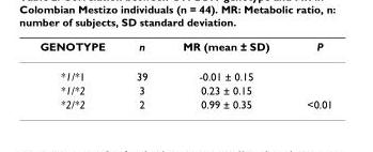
<table><thead><tr><td>GENOTYPE</td><td>n</td><td>MR (mean ± SD)</td><td>P</td></tr></thead><tbody><tr><td>*1/*1</td><td>39</td><td>-0.01 ± 0.15</td><td></td></tr><tr><td>*1/*2</td><td>3</td><td>0.23 ± 0.15</td><td></td></tr><tr><td>*2/*2</td><td>2</td><td>0.99 ± 0.35</td><td>&lt;0.01</td></tr></tbody></table>